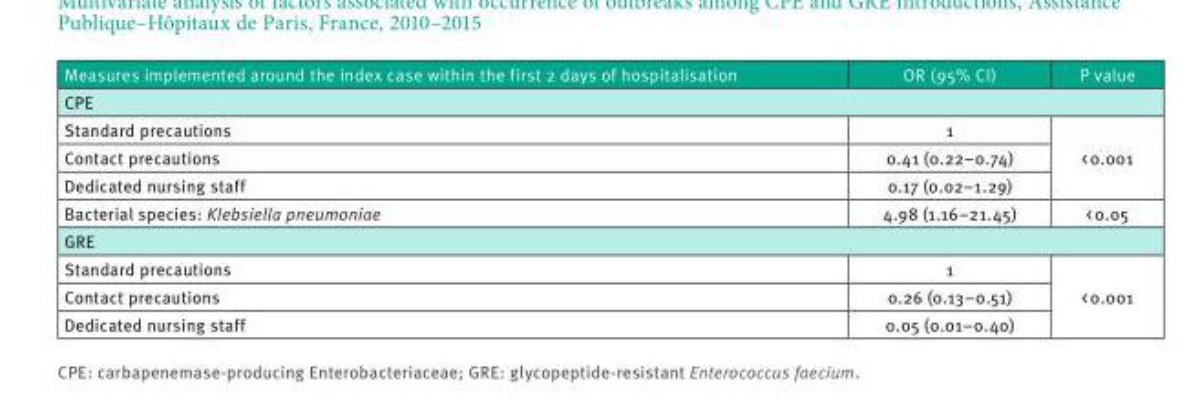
<table><thead><tr><td>Measures implemented around the index case within the first 2 days of hospitalisation</td><td>OR (95% CI)</td><td>P value</td></tr></thead><tbody><tr><td colspan="3">CPE</td></tr><tr><td>Standard precautions</td><td>1</td><td rowspan="3">&lt; 0.001</td></tr><tr><td>Contact precautions</td><td>0.41 (0.22–0.74)</td></tr><tr><td>Dedicated nursing staff</td><td>0.17 (0.02–1.29)</td></tr><tr><td>Bacterial species: Klebsiella pneumoniae</td><td>4.98 (1.16–21.45)</td><td>&lt; 0.05</td></tr><tr><td colspan="3">GRE</td></tr><tr><td>Standard precautions</td><td>1</td><td rowspan="3">&lt; 0.001</td></tr><tr><td>Contact precautions</td><td>0.26 (0.13–0.51)</td></tr><tr><td>Dedicated nursing staff</td><td>0.05 (0.01–0.40)</td></tr></tbody></table>